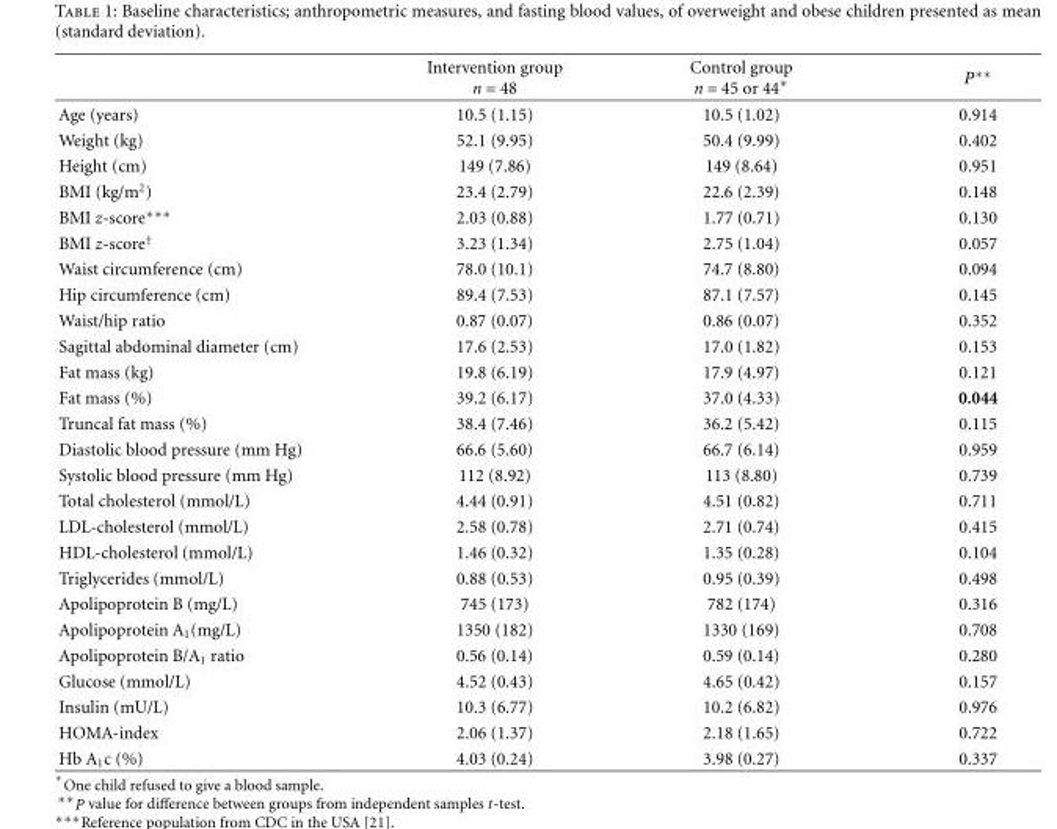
<table><thead><tr><td></td><td>Intervention group n = 48</td><td>Control group n = 45 or 44∗</td><td>P∗∗</td></tr></thead><tbody><tr><td>Age (years)</td><td>10.5 (1.15)</td><td>10.5 (1.02)</td><td>0.914</td></tr><tr><td>Weight (kg)</td><td>52.1 (9.95)</td><td>50.4 (9.99)</td><td>0.402</td></tr><tr><td>Height (cm)</td><td>149 (7.86)</td><td>149 (8.64)</td><td>0.951</td></tr><tr><td>BMI (kg/m<sup>2</sup>)</td><td>23.4 (2.79)</td><td>22.6 (2.39)</td><td>0.148</td></tr><tr><td>BMI z-score∗∗∗</td><td>2.03 (0.88)</td><td>1.77 (0.71)</td><td>0.130</td></tr><tr><td>BMI z-score<sup>†</sup></td><td>3.23 (1.34)</td><td>2.75 (1.04)</td><td>0.057</td></tr><tr><td>Waist circumference (cm)</td><td>78.0 (10.1)</td><td>74.7 (8.80)</td><td>0.094</td></tr><tr><td>Hip circumference (cm)</td><td>89.4 (7.53)</td><td>87.1 (7.57)</td><td>0.145</td></tr><tr><td>Waist/hip ratio</td><td>0.87 (0.07)</td><td>0.86 (0.07)</td><td>0.352</td></tr><tr><td>Sagittal abdominal diameter (cm)</td><td>17.6 (2.53)</td><td>17.0 (1.82)</td><td>0.153</td></tr><tr><td>Fat mass (kg)</td><td>19.8 (6.19)</td><td>17.9 (4.97)</td><td>0.121</td></tr><tr><td>Fat mass (%)</td><td>39.2 (6.17)</td><td>37.0 (4.33)</td><td>0.044</td></tr><tr><td>Truncal fat mass (%)</td><td>38.4 (7.46)</td><td>36.2 (5.42)</td><td>0.115</td></tr><tr><td>Diastolic blood pressure (mm Hg)</td><td>66.6 (5.60)</td><td>66.7 (6.14)</td><td>0.959</td></tr><tr><td>Systolic blood pressure (mm Hg)</td><td>112 (8.92)</td><td>113 (8.80)</td><td>0.739</td></tr><tr><td>Total cholesterol (mmol/L)</td><td>4.44 (0.91)</td><td>4.51 (0.82)</td><td>0.711</td></tr><tr><td>LDL-cholesterol (mmol/L)</td><td>2.58 (0.78)</td><td>2.71 (0.74)</td><td>0.415</td></tr><tr><td>HDL-cholesterol (mmol/L)</td><td>1.46 (0.32)</td><td>1.35 (0.28)</td><td>0.104</td></tr><tr><td>Triglycerides (mmol/L)</td><td>0.88 (0.53)</td><td>0.95 (0.39)</td><td>0.498</td></tr><tr><td>Apolipoprotein B (mg/L)</td><td>745 (173)</td><td>782 (174)</td><td>0.316</td></tr><tr><td>Apolipoprotein A<sub>1</sub>(mg/L)</td><td>1350 (182)</td><td>1330 (169)</td><td>0.708</td></tr><tr><td>Apolipoprotein B/A<sub>1</sub> ratio</td><td>0.56 (0.14)</td><td>0.59 (0.14)</td><td>0.280</td></tr><tr><td>Glucose (mmol/L)</td><td>4.52 (0.43)</td><td>4.65 (0.42)</td><td>0.157</td></tr><tr><td>Insulin (mU/L)</td><td>10.3 (6.77)</td><td>10.2 (6.82)</td><td>0.976</td></tr><tr><td>HOMA-index</td><td>2.06 (1.37)</td><td>2.18 (1.65)</td><td>0.722</td></tr><tr><td>Hb A<sub>1</sub>c (%)</td><td>4.03 (0.24)</td><td>3.98 (0.27)</td><td>0.337</td></tr></tbody></table>